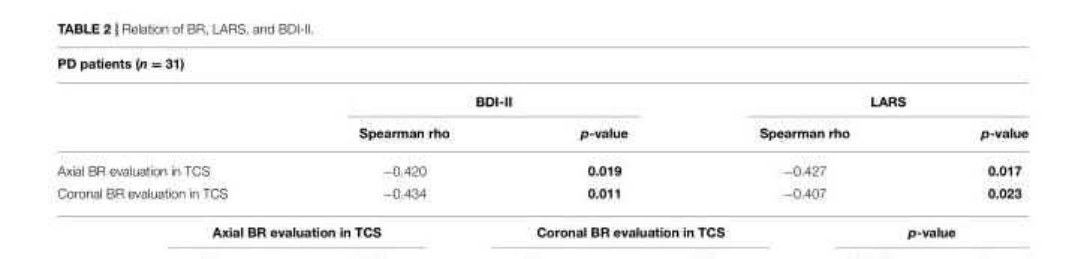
<table><thead><tr><td colspan="5">PD patients (n = 31)</td></tr><tr><td rowspan="2"></td><td colspan="2">BDI-II</td><td colspan="2">LARS</td></tr><tr><td>Spearman rho</td><td>p-value</td><td>Spearman rho</td><td>p-value</td></tr></thead><tbody><tr><td>Axial BR evaluation in TCS</td><td>−0.420</td><td>0.019</td><td>−0.427</td><td>0.017</td></tr><tr><td>Coronal BR evaluation in TCS</td><td>−0.434</td><td>0.011</td><td>−0.407</td><td>0.023</td></tr></tbody></table>